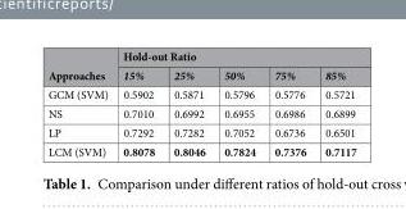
<table><thead><tr><td rowspan="2">Approaches</td><td colspan="5">Hold-out Ratio</td></tr><tr><td>15%</td><td>25%</td><td>50%</td><td>75%</td><td>85%</td></tr></thead><tbody><tr><td>GCM (SVM)</td><td>0.5902</td><td>0.5871</td><td>0.5796</td><td>0.5776</td><td>0.5721</td></tr><tr><td>NS</td><td>0.7010</td><td>0.6992</td><td>0.6955</td><td>0.6986</td><td>0.6899</td></tr><tr><td>LP</td><td>0.7292</td><td>0.7282</td><td>0.7052</td><td>0.6736</td><td>0.6501</td></tr><tr><td>LCM (SVM)</td><td>0.8078</td><td>0.8046</td><td>0.7824</td><td>0.7376</td><td>0.7117</td></tr></tbody></table>